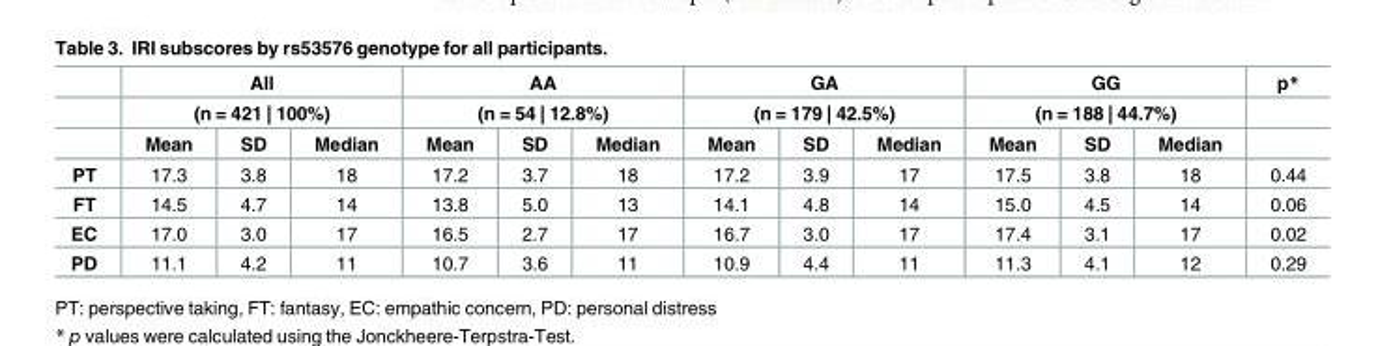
<table><thead><tr><td rowspan="3"></td><td rowspan="2" colspan="3">All (n = 421 | 100%)</td><td rowspan="2" colspan="3">AA (n = 54 | 12.8%)</td><td rowspan="2" colspan="3">GA (n = 179 | 42.5%)</td><td rowspan="2" colspan="3">GG (n = 188 | 44.7%)</td><td rowspan="3">p*</td></tr><tr></tr><tr><td>Mean</td><td>SD</td><td>Median</td><td>Mean</td><td>SD</td><td>Median</td><td>Mean</td><td>SD</td><td>Median</td><td>Mean</td><td>SD</td><td>Median</td></tr></thead><tbody><tr><td>PT</td><td>17.3</td><td>3.8</td><td>18</td><td>17.2</td><td>3.7</td><td>18</td><td>17.2</td><td>3.9</td><td>17</td><td>17.5</td><td>3.8</td><td>18</td><td>0.44</td></tr><tr><td>FT</td><td>14.5</td><td>4.7</td><td>14</td><td>13.8</td><td>5.0</td><td>13</td><td>14.1</td><td>4.8</td><td>14</td><td>15.0</td><td>4.5</td><td>14</td><td>0.06</td></tr><tr><td>EC</td><td>17.0</td><td>3.0</td><td>17</td><td>16.5</td><td>2.7</td><td>17</td><td>16.7</td><td>3.0</td><td>17</td><td>17.4</td><td>3.1</td><td>17</td><td>0.02</td></tr><tr><td>PD</td><td>11.1</td><td>4.2</td><td>11</td><td>10.7</td><td>3.6</td><td>11</td><td>10.9</td><td>4.4</td><td>11</td><td>11.3</td><td>4.1</td><td>12</td><td>0.29</td></tr></tbody></table>